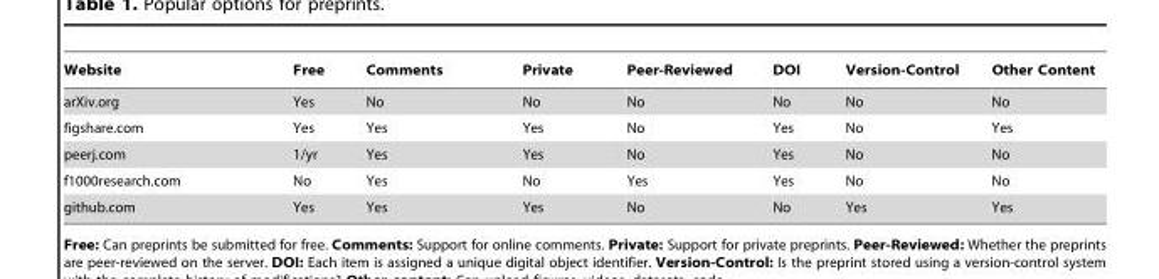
<table><thead><tr><td>Website</td><td>Free</td><td>Comments</td><td>Private</td><td>Peer-Reviewed</td><td>DOI</td><td>Version-Control</td><td>Other Content</td></tr></thead><tbody><tr><td>arXiv.org</td><td>Yes</td><td>No</td><td>No</td><td>No</td><td>No</td><td>No</td><td>No</td></tr><tr><td>figshare.com</td><td>Yes</td><td>Yes</td><td>Yes</td><td>No</td><td>Yes</td><td>No</td><td>Yes</td></tr><tr><td>peerj.com</td><td>1/yr</td><td>Yes</td><td>Yes</td><td>No</td><td>Yes</td><td>No</td><td>No</td></tr><tr><td>f1000research.com</td><td>No</td><td>Yes</td><td>No</td><td>Yes</td><td>Yes</td><td>No</td><td>No</td></tr><tr><td>github.com</td><td>Yes</td><td>Yes</td><td>Yes</td><td>No</td><td>No</td><td>Yes</td><td>Yes</td></tr></tbody></table>